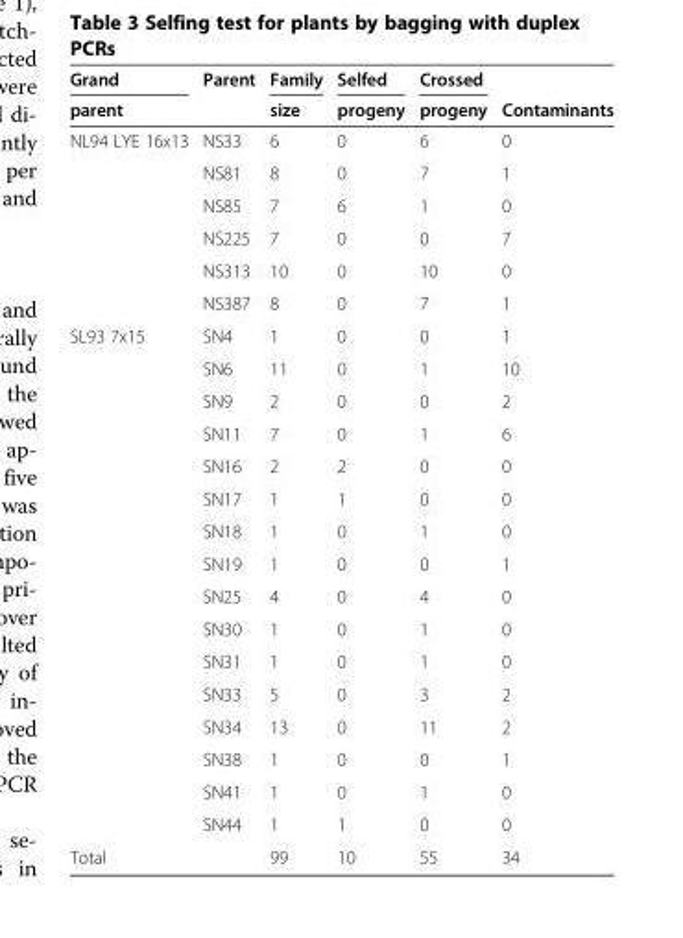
<table><thead><tr><td rowspan="2">Grand parent</td><td rowspan="2">Parent</td><td rowspan="2">Family size</td><td rowspan="2">Selfed progeny</td><td rowspan="2">Crossed progeny</td><td rowspan="2">Contaminants</td></tr><tr></tr></thead><tbody><tr><td rowspan="6">NL94 LYE 16x13</td><td>NS33</td><td>6</td><td>0</td><td>6</td><td>0</td></tr><tr><td>NS81</td><td>8</td><td>0</td><td>7</td><td>1</td></tr><tr><td>NS85</td><td>7</td><td>6</td><td>1</td><td>0</td></tr><tr><td>NS225</td><td>7</td><td>0</td><td>0</td><td>7</td></tr><tr><td>NS313</td><td>10</td><td>0</td><td>10</td><td>0</td></tr><tr><td>NS387</td><td>8</td><td>0</td><td>7</td><td>1</td></tr><tr><td rowspan="16">SL93 7x15</td><td>SN4</td><td>1</td><td>0</td><td>0</td><td>1</td></tr><tr><td>SN6</td><td>11</td><td>0</td><td>1</td><td>10</td></tr><tr><td>SN9</td><td>2</td><td>0</td><td>0</td><td>2</td></tr><tr><td>SN11</td><td>7</td><td>0</td><td>1</td><td>6</td></tr><tr><td>SN16</td><td>2</td><td>2</td><td>0</td><td>0</td></tr><tr><td>SN17</td><td>1</td><td>1</td><td>0</td><td>0</td></tr><tr><td>SN18</td><td>1</td><td>0</td><td>1</td><td>0</td></tr><tr><td>SN19</td><td>1</td><td>0</td><td>0</td><td>1</td></tr><tr><td>SN25</td><td>4</td><td>0</td><td>4</td><td>0</td></tr><tr><td>SN30</td><td>1</td><td>0</td><td>1</td><td>0</td></tr><tr><td>SN31</td><td>1</td><td>0</td><td>1</td><td>0</td></tr><tr><td>SN33</td><td>5</td><td>0</td><td>3</td><td>2</td></tr><tr><td>SN34</td><td>13</td><td>0</td><td>11</td><td>2</td></tr><tr><td>SN38</td><td>1</td><td>0</td><td>0</td><td>1</td></tr><tr><td>SN41</td><td>1</td><td>0</td><td>1</td><td>0</td></tr><tr><td>SN44</td><td>1</td><td>1</td><td>0</td><td>0</td></tr><tr><td>Total</td><td></td><td>99</td><td>10</td><td>55</td><td>34</td></tr></tbody></table>